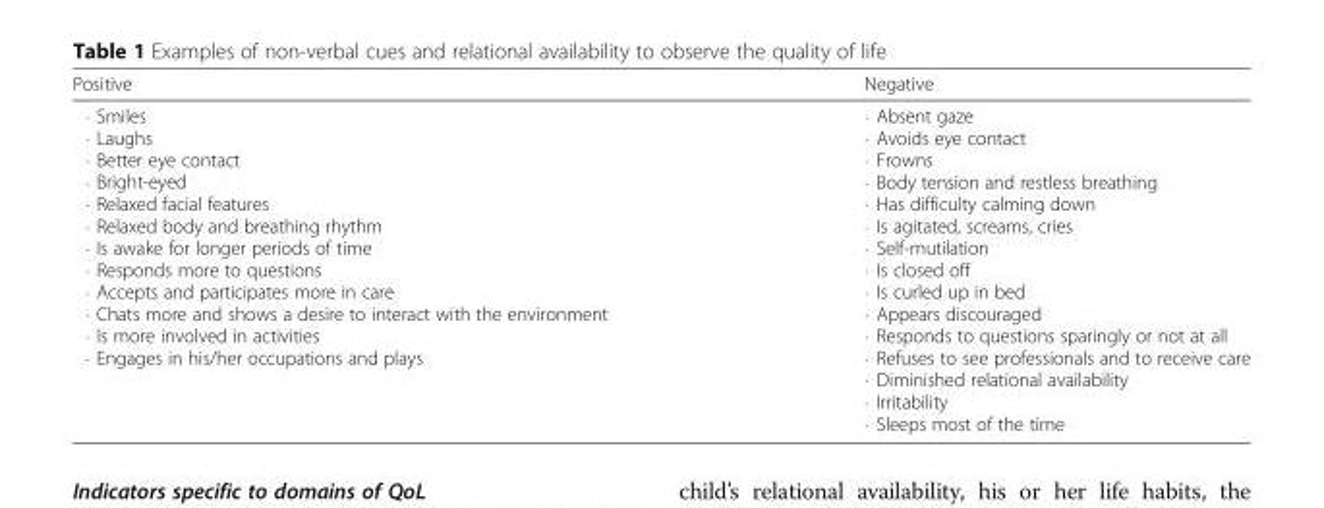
<table><thead><tr><td>Positive</td><td>Negative</td></tr></thead><tbody><tr><td>⋅ Smiles ⋅ Laughs ⋅ Better eye contact ⋅ Bright-eyed ⋅ Relaxed facial features ⋅ Relaxed body and breathing rhythm ⋅ Is awake for longer periods of time ⋅ Responds more to questions ⋅ Accepts and participates more in care ⋅ Chats more and shows a desire to interact with the environment ⋅ Is more involved in activities ⋅ Engages in his/her occupations and plays</td><td>⋅ Absent gaze ⋅ Avoids eye contact ⋅ Frowns ⋅ Body tension and restless breathing ⋅ Has difficulty calming down ⋅ Is agitated, screams, cries ⋅ Self-mutilation ⋅ Is closed off ⋅ Is curled up in bed ⋅ Appears discouraged ⋅ Responds to questions sparingly or not at all ⋅ Refuses to see professionals and to receive care ⋅ Diminished relational availability ⋅ Irritability ⋅ Sleeps most of the time</td></tr></tbody></table>